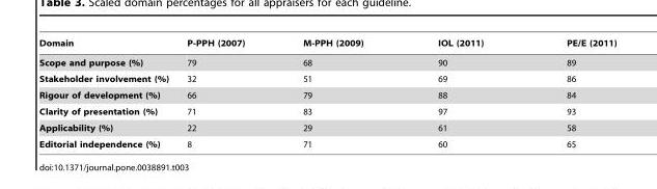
<table><thead><tr><td>Domain</td><td>P-PPH (2007)</td><td>M-PPH (2009)</td><td>IOL (2011)</td><td>PE/E (2011)</td></tr></thead><tbody><tr><td>Scope and purpose (%)</td><td>79</td><td>68</td><td>90</td><td>89</td></tr><tr><td>Stakeholder involvement (%)</td><td>32</td><td>51</td><td>69</td><td>86</td></tr><tr><td>Rigour of development (%)</td><td>66</td><td>79</td><td>88</td><td>84</td></tr><tr><td>Clarity of presentation (%)</td><td>71</td><td>83</td><td>97</td><td>93</td></tr><tr><td>Applicability (%)</td><td>22</td><td>29</td><td>61</td><td>58</td></tr><tr><td>Editorial independence (%)</td><td>8</td><td>71</td><td>60</td><td>65</td></tr></tbody></table>